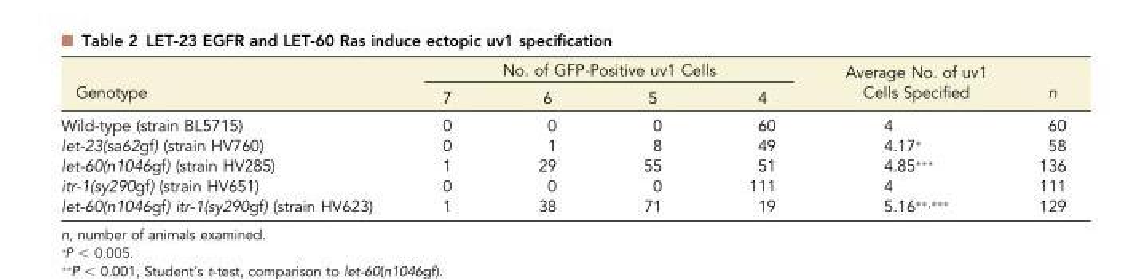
<table><thead><tr><td rowspan="2">Genotype</td><td colspan="4">No. of GFP-Positive uv1 Cells</td><td rowspan="2">Average No. of uv1 Cells Specified</td><td rowspan="2">n</td></tr><tr><td>7</td><td>6</td><td>5</td><td>4</td></tr></thead><tbody><tr><td>Wild-type (strain BL5715)</td><td>0</td><td>0</td><td>0</td><td>60</td><td>4</td><td>60</td></tr><tr><td>let-23(sa62gf) (strain HV760)</td><td>0</td><td>1</td><td>8</td><td>49</td><td>4.17*</td><td>58</td></tr><tr><td>let-60(n1046gf) (strain HV285)</td><td>1</td><td>29</td><td>55</td><td>51</td><td>4.85***</td><td>136</td></tr><tr><td>itr-1(sy290gf) (strain HV651)</td><td>0</td><td>0</td><td>0</td><td>111</td><td>4</td><td>111</td></tr><tr><td>let-60(n1046gf) itr-1(sy290gf) (strain HV623)</td><td>1</td><td>38</td><td>71</td><td>19</td><td>5.16**<sup>,</sup>***</td><td>129</td></tr></tbody></table>